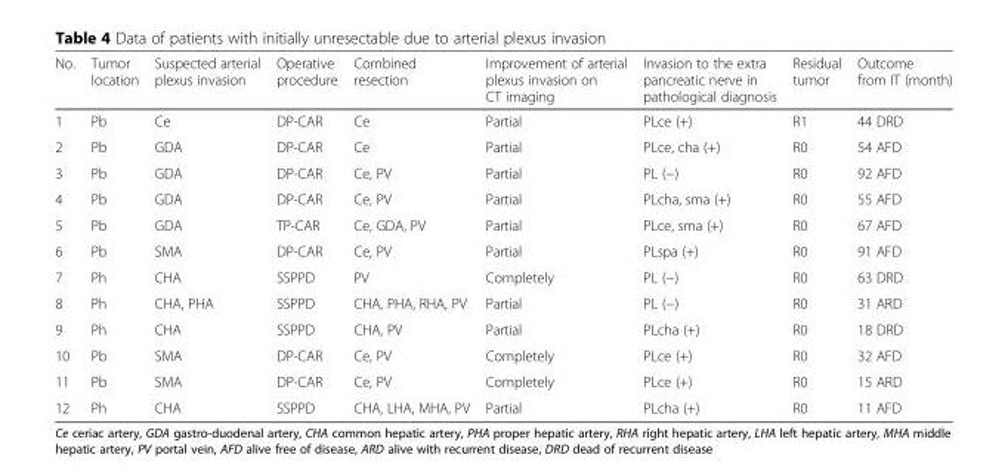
<table><thead><tr><td>No.</td><td>Tumor location</td><td>Suspected arterial plexus invasion</td><td>Operative procedure</td><td>Combined resection</td><td>Improvement of arterial plexus invasion on CT imaging</td><td>Invasion to the extra pancreatic nerve in pathological diagnosis</td><td>Residual tumor</td><td>Outcome from IT (month)</td></tr></thead><tbody><tr><td>1</td><td>Pb</td><td>Ce</td><td>DP-CAR</td><td>Ce</td><td>Partial</td><td>PLce (+)</td><td>R1</td><td>44 DRD</td></tr><tr><td>2</td><td>Pb</td><td>GDA</td><td>DP-CAR</td><td>Ce</td><td>Partial</td><td>PLce, cha (+)</td><td>R0</td><td>54 AFD</td></tr><tr><td>3</td><td>Pb</td><td>GDA</td><td>DP-CAR</td><td>Ce, PV</td><td>Partial</td><td>PL (−)</td><td>R0</td><td>92 AFD</td></tr><tr><td>4</td><td>Pb</td><td>GDA</td><td>DP-CAR</td><td>Ce, PV</td><td>Partial</td><td>PLcha, sma (+)</td><td>R0</td><td>55 AFD</td></tr><tr><td>5</td><td>Pb</td><td>GDA</td><td>TP-CAR</td><td>Ce, GDA, PV</td><td>Partial</td><td>PLce, sma (+)</td><td>R0</td><td>67 AFD</td></tr><tr><td>6</td><td>Pb</td><td>SMA</td><td>DP-CAR</td><td>Ce, PV</td><td>Partial</td><td>PLspa (+)</td><td>R0</td><td>91 AFD</td></tr><tr><td>7</td><td>Ph</td><td>CHA</td><td>SSPPD</td><td>PV</td><td>Completely</td><td>PL (−)</td><td>R0</td><td>63 DRD</td></tr><tr><td>8</td><td>Ph</td><td>CHA, PHA</td><td>SSPPD</td><td>CHA, PHA, RHA, PV</td><td>Partial</td><td>PL (−)</td><td>R0</td><td>31 ARD</td></tr><tr><td>9</td><td>Ph</td><td>CHA</td><td>SSPPD</td><td>CHA, PV</td><td>Partial</td><td>PLcha (+)</td><td>R0</td><td>18 DRD</td></tr><tr><td>10</td><td>Pb</td><td>SMA</td><td>DP-CAR</td><td>Ce, PV</td><td>Completely</td><td>PLce (+)</td><td>R0</td><td>32 AFD</td></tr><tr><td>11</td><td>Pb</td><td>SMA</td><td>DP-CAR</td><td>Ce, PV</td><td>Completely</td><td>PLce (+)</td><td>R0</td><td>15 ARD</td></tr><tr><td>12</td><td>Ph</td><td>CHA</td><td>SSPPD</td><td>CHA, LHA, MHA, PV</td><td>Partial</td><td>PLcha (+)</td><td>R0</td><td>11 AFD</td></tr></tbody></table>